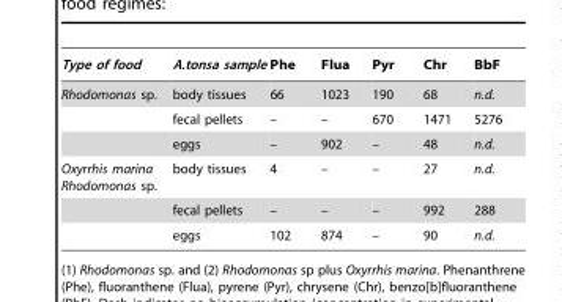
<table><thead><tr><td>Type of food</td><td>A.tonsa sample</td><td>Phe</td><td>Flua</td><td>Pyr</td><td>Chr</td><td>BbF</td></tr></thead><tbody><tr><td rowspan="3">Rhodomonas sp.</td><td>body tissues</td><td>66</td><td>1023</td><td>190</td><td>68</td><td>n.d.</td></tr><tr><td>fecal pellets</td><td>–</td><td>–</td><td>670</td><td>1471</td><td>5276</td></tr><tr><td>eggs</td><td>–</td><td>902</td><td>–</td><td>48</td><td>n.d.</td></tr><tr><td rowspan="3">Oxyrrhis marina Rhodomonas sp.</td><td>body tissues</td><td>4</td><td>–</td><td>–</td><td>27</td><td>n.d.</td></tr><tr><td>fecal pellets</td><td>–</td><td>–</td><td>–</td><td>992</td><td>288</td></tr><tr><td>eggs</td><td>102</td><td>874</td><td>–</td><td>90</td><td>n.d.</td></tr></tbody></table>